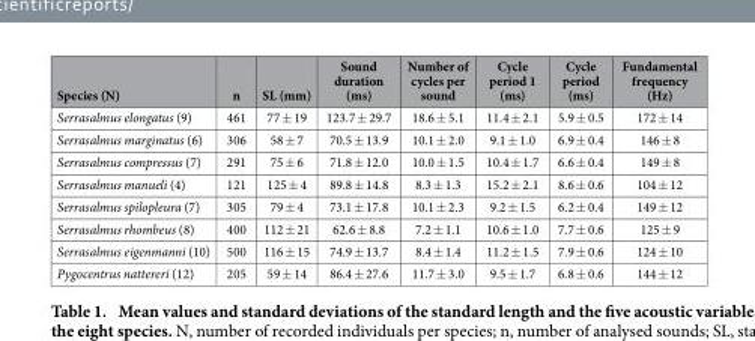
<table><thead><tr><td>Species (N)</td><td>n</td><td>SL (mm)</td><td>Sound duration (ms)</td><td>Number of cycles per sound</td><td>Cycle period 1 (ms)</td><td>Cycle period (ms)</td><td>Fundamental frequency (Hz)</td></tr></thead><tbody><tr><td>Serrasalmus elongatus (9)</td><td>461</td><td>77 ± 19</td><td>123.7 ± 29.7</td><td>18.6 ± 5.1</td><td>11.4 ± 2.1</td><td>5.9 ± 0.5</td><td>172 ± 14</td></tr><tr><td>Serrasalmus marginatus (6)</td><td>306</td><td>58 ± 7</td><td>70.5 ± 13.9</td><td>10.1 ± 2.0</td><td>9.1 ± 1.0</td><td>6.9 ± 0.4</td><td>146 ± 8</td></tr><tr><td>Serrasalmus compressus (7)</td><td>291</td><td>75 ± 6</td><td>71.8 ± 12.0</td><td>10.0 ± 1.5</td><td>10.4 ± 1.7</td><td>6.6 ± 0.4</td><td>149 ± 8</td></tr><tr><td>Serrasalmus manueli (4)</td><td>121</td><td>125 ± 4</td><td>89.8 ± 14.8</td><td>8.3 ± 1.3</td><td>15.2 ± 2.1</td><td>8.6 ± 0.6</td><td>104 ± 12</td></tr><tr><td>Serrasalmus spilopleura (7)</td><td>305</td><td>79 ± 4</td><td>73.1 ± 17.8</td><td>10.1 ± 2.3</td><td>9.2 ± 1.5</td><td>6.2 ± 0.4</td><td>149 ± 12</td></tr><tr><td>Serrasalmus rhombeus (8)</td><td>400</td><td>112 ± 21</td><td>62.6 ± 8.8</td><td>7.2 ± 1.1</td><td>10.6 ± 1.0</td><td>7.7 ± 0.6</td><td>125 ± 9</td></tr><tr><td>Serrasalmus eigenmanni (10)</td><td>500</td><td>116 ± 15</td><td>74.9 ± 13.7</td><td>8.4 ± 1.4</td><td>11.2 ± 1.5</td><td>7.9 ± 0.6</td><td>124 ± 10</td></tr><tr><td>Pygocentrus nattereri (12)</td><td>205</td><td>59 ± 14</td><td>86.4 ± 27.6</td><td>11.7 ± 3.0</td><td>9.5 ± 1.7</td><td>6.8 ± 0.6</td><td>144 ± 12</td></tr></tbody></table>